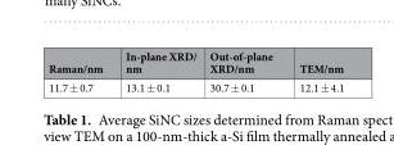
<table><thead><tr><td>Raman/nm</td><td>In-plane XRD/ nm</td><td>Out-of-plane XRD/nm</td><td>TEM/nm</td></tr></thead><tbody><tr><td>11.7 ± 0.7</td><td>13.1 ± 0.1</td><td>30.7 ± 0.1</td><td>12.1 ± 4.1</td></tr></tbody></table>